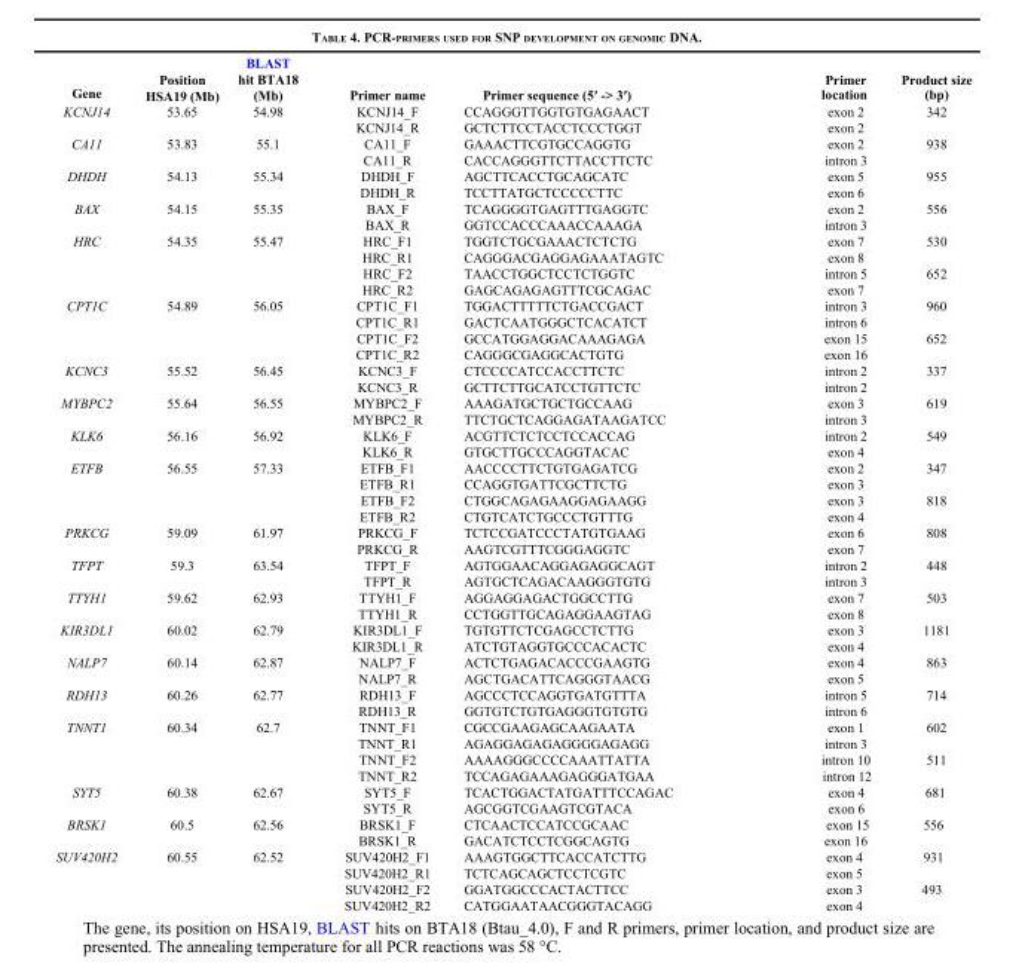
<table><thead><tr><td>Gene</td><td>Position HSA19 (Mb)</td><td>BLAST hit BTA18 (Mb)</td><td>Primer name</td><td>Primer sequence (5′ -&gt; 3′)</td><td>Primer location</td><td>Product size (bp)</td></tr></thead><tbody><tr><td rowspan="2">KCNJ14</td><td>53.65</td><td>54.98</td><td>KCNJ14_F</td><td>CCAGGGTTGGTGTGAGAACT</td><td>exon 2</td><td>342</td></tr><tr><td></td><td></td><td>KCNJ14_R</td><td>GCTCTTCCTACCTCCCTGGT</td><td>exon 2</td><td></td></tr><tr><td rowspan="2">CA11</td><td>53.83</td><td>55.1</td><td>CA11_F</td><td>GAAACTTCGTGCCAGGTG</td><td>exon 2</td><td>938</td></tr><tr><td></td><td></td><td>CA11_R</td><td>CACCAGGGTTCTTACCTTCTC</td><td>intron 3</td><td></td></tr><tr><td rowspan="2">DHDH</td><td>54.13</td><td>55.34</td><td>DHDH_F</td><td>AGCTTCACCTGCAGCATC</td><td>exon 5</td><td>955</td></tr><tr><td></td><td></td><td>DHDH_R</td><td>TCCTTATGCTCCCCCTTC</td><td>exon 6</td><td></td></tr><tr><td rowspan="2">BAX</td><td>54.15</td><td>55.35</td><td>BAX_F</td><td>TCAGGGGTGAGTTTGAGGTC</td><td>exon 2</td><td>556</td></tr><tr><td></td><td></td><td>BAX_R</td><td>GGTCCACCCAAACCAAAGA</td><td>intron 3</td><td></td></tr><tr><td rowspan="4">HRC</td><td>54.35</td><td>55.47</td><td>HRC_F1</td><td>TGGTCTGCGAAACTCTCTG</td><td>exon 7</td><td>530</td></tr><tr><td></td><td></td><td>HRC_R1</td><td>CAGGGACGAGGAGAAATAGTC</td><td>exon 8</td><td></td></tr><tr><td></td><td></td><td>HRC_F2</td><td>TAACCTGGCTCCTCTGGTC</td><td>intron 5</td><td>652</td></tr><tr><td></td><td></td><td>HRC_R2</td><td>GAGCAGAGAGTTTCGCAGAC</td><td>exon 7</td><td></td></tr><tr><td rowspan="4">CPT1C</td><td>54.89</td><td>56.05</td><td>CPT1C_F1</td><td>TGGACTTTTTCTGACCGACT</td><td>intron 3</td><td>960</td></tr><tr><td></td><td></td><td>CPT1C_R1</td><td>GACTCAATGGGCTCACATCT</td><td>intron 6</td><td></td></tr><tr><td></td><td></td><td>CPT1C_F2</td><td>GCCATGGAGGACAAAGAGA</td><td>exon 15</td><td>652</td></tr><tr><td></td><td></td><td>CPT1C_R2</td><td>CAGGGCGAGGCACTGTG</td><td>exon 16</td><td></td></tr><tr><td rowspan="2">KCNC3</td><td>55.52</td><td>56.45</td><td>KCNC3_F</td><td>CTCCCCATCCACCTTCTC</td><td>intron 2</td><td>337</td></tr><tr><td></td><td></td><td>KCNC3_R</td><td>GCTTCTTGCATCCTGTTCTC</td><td>intron 2</td><td></td></tr><tr><td rowspan="2">MYBPC2</td><td>55.64</td><td>56.55</td><td>MYBPC2_F</td><td>AAAGATGCTGCTGCCAAG</td><td>exon 3</td><td>619</td></tr><tr><td></td><td></td><td>MYBPC2_R</td><td>TTCTGCTCAGGAGATAAGATCC</td><td>intron 3</td><td></td></tr><tr><td rowspan="2">KLK6</td><td>56.16</td><td>56.92</td><td>KLK6_F</td><td>ACGTTCTCTCCTCCACCAG</td><td>intron 2</td><td>549</td></tr><tr><td></td><td></td><td>KLK6_R</td><td>GTGCTTGCCCAGGTACAC</td><td>exon 4</td><td></td></tr><tr><td rowspan="4">ETFB</td><td>56.55</td><td>57.33</td><td>ETFB_F1</td><td>AACCCCTTCTGTGAGATCG</td><td>exon 2</td><td>347</td></tr><tr><td></td><td></td><td>ETFB_R1</td><td>CCAGGTGATTCGCTTCTG</td><td>exon 3</td><td></td></tr><tr><td></td><td></td><td>ETFB_F2</td><td>CTGGCAGAGAAGGAGAAGG</td><td>exon 3</td><td>818</td></tr><tr><td></td><td></td><td>ETFB_R2</td><td>CTGTCATCTGCCCTGTTTG</td><td>exon 4</td><td></td></tr><tr><td rowspan="2">PRKCG</td><td>59.09</td><td>61.97</td><td>PRKCG_F</td><td>TCTCCGATCCCTATGTGAAG</td><td>exon 6</td><td>808</td></tr><tr><td></td><td></td><td>PRKCG_R</td><td>AAGTCGTTTCGGGAGGTC</td><td>exon 7</td><td></td></tr><tr><td rowspan="2">TFPT</td><td>59.3</td><td>63.54</td><td>TFPT_F</td><td>AGTGGAACAGGAGAGGCAGT</td><td>intron 2</td><td>448</td></tr><tr><td></td><td></td><td>TFPT_R</td><td>AGTGCTCAGACAAGGGTGTG</td><td>intron 3</td><td></td></tr><tr><td rowspan="2">TTYH1</td><td>59.62</td><td>62.93</td><td>TTYH1_F</td><td>AGGAGGAGACTGGCCTTG</td><td>exon 7</td><td>503</td></tr><tr><td></td><td></td><td>TTYH1_R</td><td>CCTGGTTGCAGAGGAAGTAG</td><td>exon 8</td><td></td></tr><tr><td rowspan="2">KIR3DL1</td><td>60.02</td><td>62.79</td><td>KIR3DL1_F</td><td>TGTGTTCTCGAGCCTCTTG</td><td>exon 3</td><td>1181</td></tr><tr><td></td><td></td><td>KIR3DL1_R</td><td>ATCTGTAGGTGCCCACACTC</td><td>exon 4</td><td></td></tr><tr><td rowspan="2">NALP7</td><td>60.14</td><td>62.87</td><td>NALP7_F</td><td>ACTCTGAGACACCCGAAGTG</td><td>exon 4</td><td>863</td></tr><tr><td></td><td></td><td>NALP7_R</td><td>AGCTGACATTCAGGGTAACG</td><td>exon 5</td><td></td></tr><tr><td rowspan="2">RDH13</td><td>60.26</td><td>62.77</td><td>RDH13_F</td><td>AGCCCTCCAGGTGATGTTTA</td><td>intron 5</td><td>714</td></tr><tr><td></td><td></td><td>RDH13_R</td><td>GGTGTCTGTGAGGGTGTGTG</td><td>intron 6</td><td></td></tr><tr><td rowspan="4">TNNT1</td><td>60.34</td><td>62.7</td><td>TNNT_F1</td><td>CGCCGAAGAGCAAGAATA</td><td>exon 1</td><td>602</td></tr><tr><td></td><td></td><td>TNNT_R1</td><td>AGAGGAGAGAGGGGAGAGG</td><td>intron 3</td><td></td></tr><tr><td></td><td></td><td>TNNT_F2</td><td>AAAAGGGCCCCAAATTATTA</td><td>intron 10</td><td>511</td></tr><tr><td></td><td></td><td>TNNT_R2</td><td>TCCAGAGAAAGAGGGATGAA</td><td>intron 12</td><td></td></tr><tr><td rowspan="2">SYT5</td><td>60.38</td><td>62.67</td><td>SYT5_F</td><td>TCACTGGACTATGATTTCCAGAC</td><td>exon 4</td><td>681</td></tr><tr><td></td><td></td><td>SYT5_R</td><td>AGCGGTCGAAGTCGTACA</td><td>exon 6</td><td></td></tr><tr><td rowspan="2">BRSK1</td><td>60.5</td><td>62.56</td><td>BRSK1_F</td><td>CTCAACTCCATCCGCAAC</td><td>exon 15</td><td>556</td></tr><tr><td></td><td></td><td>BRSK1_R</td><td>GACATCTCCTCGGCAGTG</td><td>exon 16</td><td></td></tr><tr><td rowspan="4">SUV420H2</td><td>60.55</td><td>62.52</td><td>SUV420H2_F1</td><td>AAAGTGGCTTCACCATCTTG</td><td>exon 4</td><td>931</td></tr><tr><td></td><td></td><td>SUV420H2_R1</td><td>TCTCAGCAGCTCCTCGTC</td><td>exon 5</td><td></td></tr><tr><td></td><td></td><td>SUV420H2_F2</td><td>GGATGGCCCACTACTTCC</td><td>exon 3</td><td>493</td></tr><tr><td></td><td></td><td>SUV420H2_R2</td><td>CATGGAATAACGGGTACAGG</td><td>exon 4</td><td></td></tr></tbody></table>